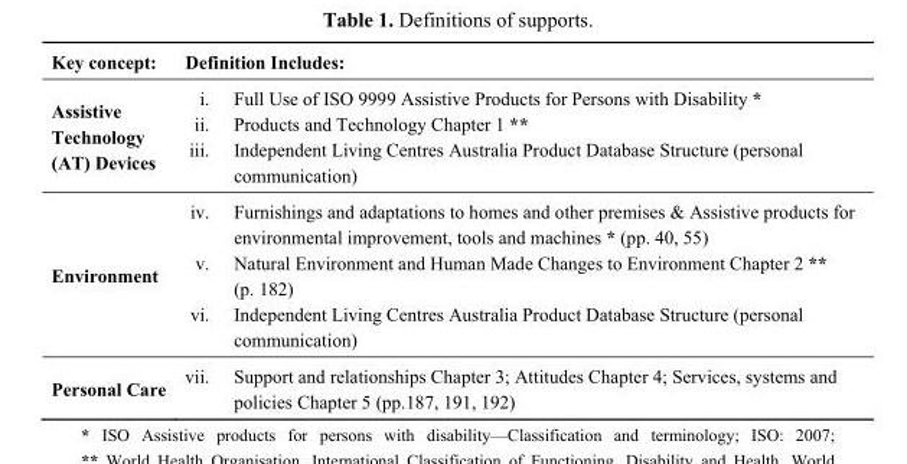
<table><thead><tr><td>Key concept:</td><td>Definition Includes:</td></tr></thead><tbody><tr><td>Assistive Technology (AT) Devices</td><td>i. Full Use of ISO 9999 Assistive Products for Persons with Disability * ii. Products and Technology Chapter 1 ** iii. Independent Living Centres Australia Product Database Structure (personal communication)</td></tr><tr><td>Environment</td><td>iv. Furnishings and adaptations to homes and other premises &amp; Assistive products for environmental improvement, tools and machines * (pp. 40, 55) v. Natural Environment and Human Made Changes to Environment Chapter 2 ** (p. 182) vi. Independent Living Centres Australia Product Database Structure (personal communication)</td></tr><tr><td>Personal Care</td><td>vii. Support and relationships Chapter 3; Attitudes Chapter 4; Services, systems and policies Chapter 5 (pp.187, 191, 192)</td></tr></tbody></table>